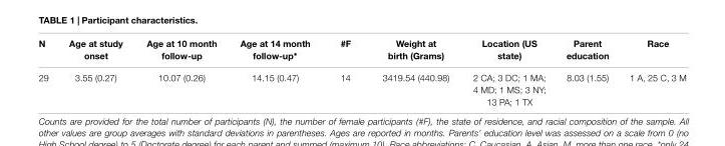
<table><thead><tr><td>N</td><td>Age at study onset</td><td>Age at 10 month follow-up</td><td>Age at 14 month follow-up∗</td><td>#F</td><td>Weight at birth (Grams)</td><td>Location (US state)</td><td>Parent education</td><td>Race</td></tr></thead><tbody><tr><td>29</td><td>3.55 (0.27)</td><td>10.07 (0.26)</td><td>14.15 (0.47)</td><td>14</td><td>3419.54 (440.98)</td><td>2 CA; 3 DC; 1 MA; 4 MD; 1 MS; 3 NY; 13 PA; 1 TX</td><td>8.03 (1.55)</td><td>1 A, 25 C, 3 M</td></tr></tbody></table>